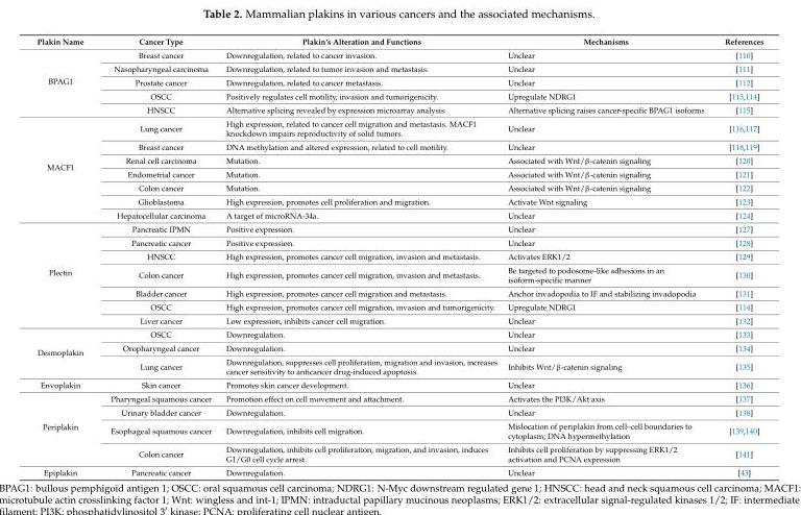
<table><thead><tr><td>Plakin Name</td><td>Cancer Type</td><td>Plakin’s Alteration and Functions</td><td>Mechanisms</td><td>References</td></tr></thead><tbody><tr><td rowspan="5">BPAG1</td><td>Breast cancer</td><td>Downregulation, related to cancer invasion.</td><td>Unclear</td><td>[110]</td></tr><tr><td>Nasopharyngeal carcinoma</td><td>Downregulation, related to tumor invasion and metastasis.</td><td>Unclear</td><td>[111]</td></tr><tr><td>Prostate cancer</td><td>Downregulation, related to cancer metastasis.</td><td>Unclear</td><td>[112]</td></tr><tr><td>OSCC</td><td>Positively regulates cell motility, invasion and tumorigenicity.</td><td>Upregulate NDRG1</td><td>[113,114]</td></tr><tr><td>HNSCC</td><td>Alternative splicing revealed by expression microarray analysis.</td><td>Alternative splicing raises cancer-specific BPAG1 isoforms</td><td>[115]</td></tr><tr><td rowspan="7">MACF1</td><td>Lung cancer</td><td>High expression, related to cancer cell migration and metastasis. MACF1 knockdown impairs reproductivity of solid tumors.</td><td>Unclear</td><td>[116,117]</td></tr><tr><td>Breast cancer</td><td>DNA methylation and altered expression, related to cell motility.</td><td>Unclear</td><td>[118,119]</td></tr><tr><td>Renal cell carcinoma</td><td>Mutation.</td><td>Associated with Wnt/β-catenin signaling</td><td>[120]</td></tr><tr><td>Endometrial cancer</td><td>Mutation.</td><td>Associated with Wnt/β-catenin signaling</td><td>[121]</td></tr><tr><td>Colon cancer</td><td>Mutation.</td><td>Associated with Wnt/β-catenin signaling</td><td>[122]</td></tr><tr><td>Glioblastoma</td><td>High expression, promotes cell proliferation and migration.</td><td>Activate Wnt signaling</td><td>[123]</td></tr><tr><td>Hepatocellular carcinoma</td><td>A target of microRNA-34a.</td><td>Unclear</td><td>[124]</td></tr><tr><td rowspan="7">Plectin</td><td>Pancreatic IPMN</td><td>Positive expression.</td><td>Unclear</td><td>[127]</td></tr><tr><td>Pancreatic cancer</td><td>Positive expression.</td><td>Unclear</td><td>[128]</td></tr><tr><td>HNSCC</td><td>High expression, promotes cancer cell migration, invasion and metastasis.</td><td>Activates ERK1/2</td><td>[129]</td></tr><tr><td>Colon cancer</td><td>High expression, promotes cancer cell migration, invasion and metastasis.</td><td>Be targeted to podosome-like adhesions in an isoform-specific manner</td><td>[130]</td></tr><tr><td>Bladder cancer</td><td>High expression, promotes cancer cell migration and metastasis.</td><td>Anchor invadopodia to IF and stabilizing invadopodia</td><td>[131]</td></tr><tr><td>OSCC</td><td>High expression, promotes cancer cell migration, invasion and tumorigenicity.</td><td>Upregulate NDRG1</td><td>[114]</td></tr><tr><td>Liver cancer</td><td>Low expression, inhibits cancer cell migration.</td><td>Unclear</td><td>[132]</td></tr><tr><td rowspan="3">Desmoplakin</td><td>OSCC</td><td>Downregulation.</td><td>Unclear</td><td>[133]</td></tr><tr><td>Oropharyngeal cancer</td><td>Downregulation.</td><td>Unclear</td><td>[134]</td></tr><tr><td>Lung cancer</td><td>Downregulation, suppresses cell proliferation, migration and invasion, increases cancer sensitivity to anticancer drug-induced apoptosis.</td><td>Inhibits Wnt/β-catenin signaling</td><td>[135]</td></tr><tr><td>Envoplakin</td><td>Skin cancer</td><td>Promotes skin cancer development.</td><td>Unclear</td><td>[136]</td></tr><tr><td rowspan="4">Periplakin</td><td>Pharyngeal squamous cancer</td><td>Promotion effect on cell movement and attachment.</td><td>Activates the PI3K/Akt axis</td><td>[137]</td></tr><tr><td>Urinary bladder cancer</td><td>Downregulation.</td><td>Unclear</td><td>[138]</td></tr><tr><td>Esophageal squamous cancer</td><td>Downregulation, inhibits cell migration.</td><td>Mislocation of periplakin from cell–cell boundaries to cytoplasm; DNA hypermethylation</td><td>[139,140]</td></tr><tr><td>Colon cancer</td><td>Downregulation, inhibits cell proliferation, migration, and invasion, induces G1/G0 cell cycle arrest.</td><td>Inhibits cell proliferation by suppressing ERK1/2 activation and PCNA expression</td><td>[141]</td></tr><tr><td>Epiplakin</td><td>Pancreatic cancer</td><td>Downregulation.</td><td>Unclear</td><td>[43]</td></tr></tbody></table>